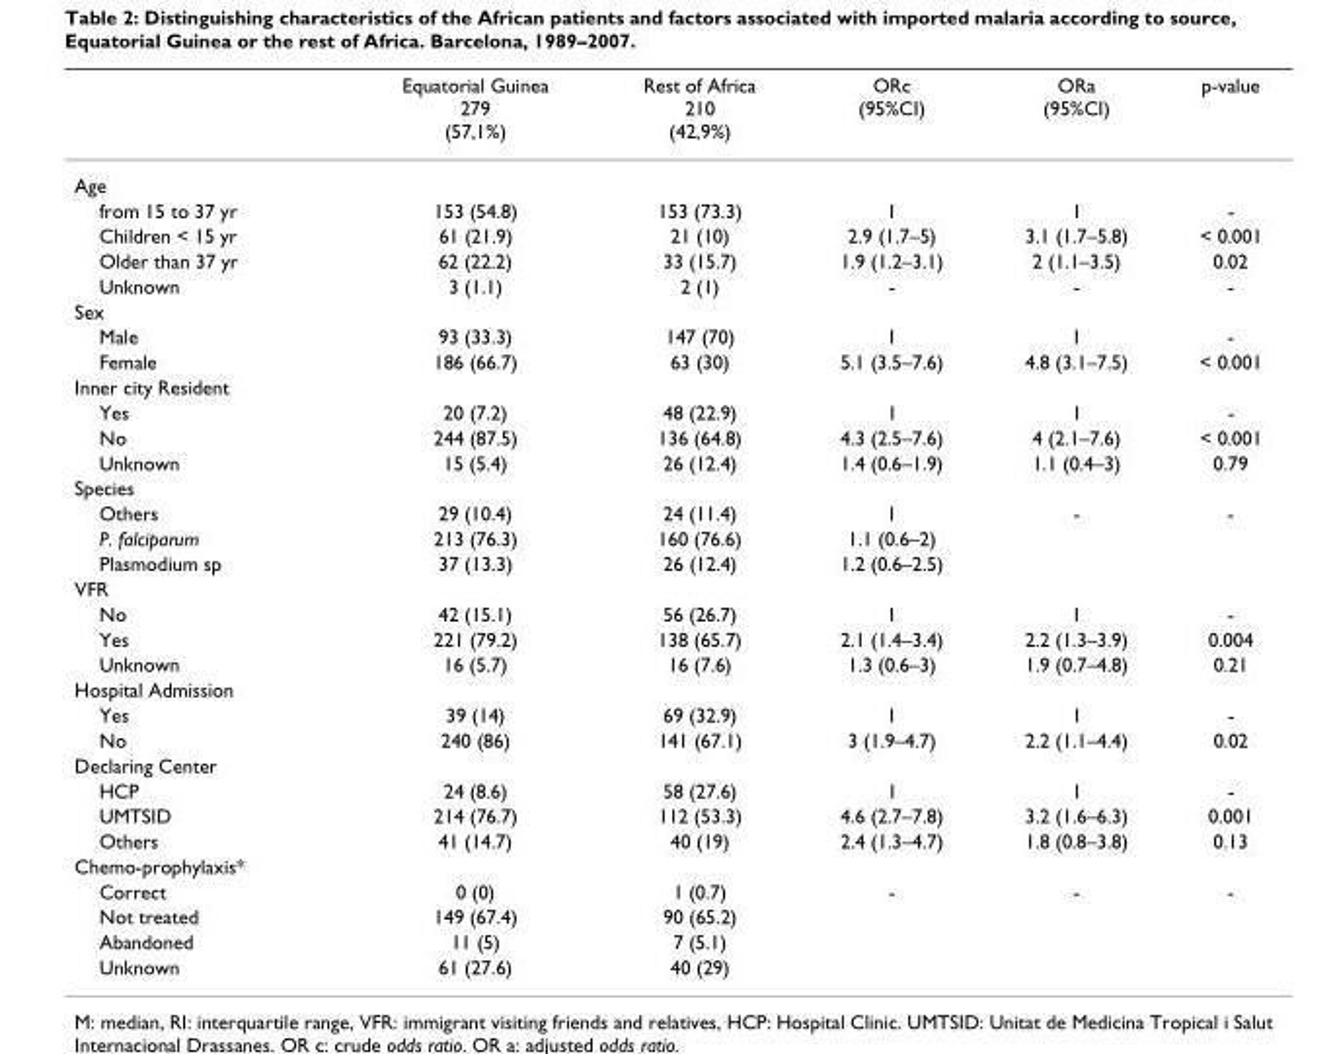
<table><thead><tr><td></td><td>Equatorial Guinea 279 (57,1%)</td><td>Rest of Africa 210 (42,9%)</td><td>ORc (95%CI)</td><td>ORa (95%CI)</td><td>p-value</td></tr></thead><tbody><tr><td colspan="6">Age</td></tr><tr><td>from 15 to 37 yr</td><td>153 (54.8)</td><td>153 (73.3)</td><td>1</td><td>1</td><td>-</td></tr><tr><td>Children &lt; 15 yr</td><td>61 (21.9)</td><td>21 (10)</td><td>2.9 (1.7–5)</td><td>3.1 (1.7–5.8)</td><td>&lt; 0.001</td></tr><tr><td>Older than 37 yr</td><td>62 (22.2)</td><td>33 (15.7)</td><td>1.9 (1.2–3.1)</td><td>2 (1.1–3.5)</td><td>0.02</td></tr><tr><td>Unknown</td><td>3 (1.1)</td><td>2 (1)</td><td>-</td><td>-</td><td>-</td></tr><tr><td colspan="6">Sex</td></tr><tr><td>Male</td><td>93 (33.3)</td><td>147 (70)</td><td>1</td><td>1</td><td>-</td></tr><tr><td>Female</td><td>186 (66.7)</td><td>63 (30)</td><td>5.1 (3.5–7.6)</td><td>4.8 (3.1–7.5)</td><td>&lt; 0.001</td></tr><tr><td colspan="6">Inner city Resident</td></tr><tr><td>Yes</td><td>20 (7.2)</td><td>48 (22.9)</td><td>1</td><td>1</td><td>-</td></tr><tr><td>No</td><td>244 (87.5)</td><td>136 (64.8)</td><td>4.3 (2.5–7.6)</td><td>4 (2.1–7.6)</td><td>&lt; 0.001</td></tr><tr><td>Unknown</td><td>15 (5.4)</td><td>26 (12.4)</td><td>1.4 (0.6–1.9)</td><td>1.1 (0.4–3)</td><td>0.79</td></tr><tr><td colspan="6">Species</td></tr><tr><td>Others</td><td>29 (10.4)</td><td>24 (11.4)</td><td>1</td><td>-</td><td>-</td></tr><tr><td>P. falciparum</td><td>213 (76.3)</td><td>160 (76.6)</td><td>1.1 (0.6–2)</td><td></td><td></td></tr><tr><td>Plasmodium sp</td><td>37 (13.3)</td><td>26 (12.4)</td><td>1.2 (0.6–2.5)</td><td></td><td></td></tr><tr><td colspan="6">VFR</td></tr><tr><td>No</td><td>42 (15.1)</td><td>56 (26.7)</td><td>1</td><td>1</td><td>-</td></tr><tr><td>Yes</td><td>221 (79.2)</td><td>138 (65.7)</td><td>2.1 (1.4–3.4)</td><td>2.2 (1.3–3.9)</td><td>0.004</td></tr><tr><td>Unknown</td><td>16 (5.7)</td><td>16 (7.6)</td><td>1.3 (0.6–3)</td><td>1.9 (0.7–4.8)</td><td>0.21</td></tr><tr><td colspan="6">Hospital Admission</td></tr><tr><td>Yes</td><td>39 (14)</td><td>69 (32.9)</td><td>1</td><td>1</td><td>-</td></tr><tr><td>No</td><td>240 (86)</td><td>141 (67.1)</td><td>3 (1.9–4.7)</td><td>2.2 (1.1–4.4)</td><td>0.02</td></tr><tr><td colspan="6">Declaring Center</td></tr><tr><td>HCP</td><td>24 (8.6)</td><td>58 (27.6)</td><td>1</td><td>1</td><td>-</td></tr><tr><td>UMTSID</td><td>214 (76.7)</td><td>112 (53.3)</td><td>4.6 (2.7–7.8)</td><td>3.2 (1.6–6.3)</td><td>0.001</td></tr><tr><td>Others</td><td>41 (14.7)</td><td>40 (19)</td><td>2.4 (1.3–4.7)</td><td>1.8 (0.8–3.8)</td><td>0.13</td></tr><tr><td colspan="6">Chemo-prophylaxis*</td></tr><tr><td>Correct</td><td>0 (0)</td><td>1 (0.7)</td><td>-</td><td>-</td><td>-</td></tr><tr><td>Not treated</td><td>149 (67.4)</td><td>90 (65.2)</td><td></td><td></td><td></td></tr><tr><td>Abandoned</td><td>11 (5)</td><td>7 (5.1)</td><td></td><td></td><td></td></tr><tr><td>Unknown</td><td>61 (27.6)</td><td>40 (29)</td><td></td><td></td><td></td></tr></tbody></table>